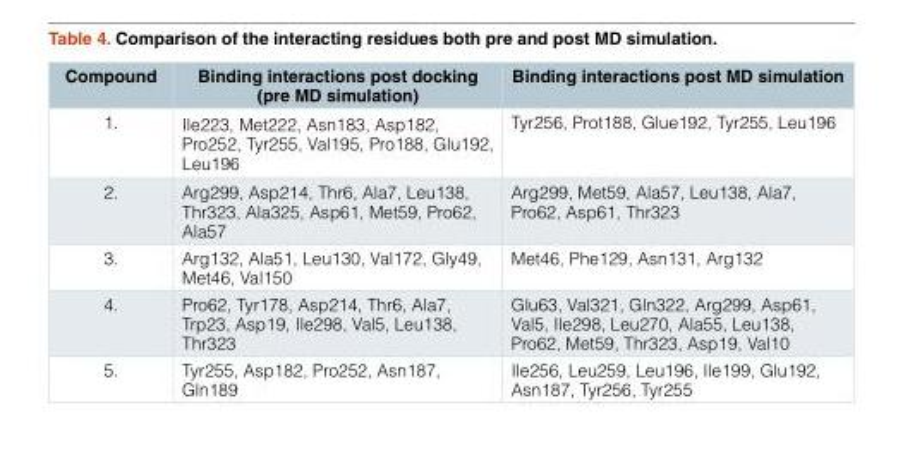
<table><thead><tr><td>Compound</td><td>Binding interactions post docking (pre MD simulation)</td><td>Binding interactions post MD simulation</td></tr></thead><tbody><tr><td>1.</td><td>Ile223, Met222, Asn183, Asp182, Pro252, Tyr255, Val195, Pro188, Glu192, Leu196</td><td>Tyr256, Prot188, Glue192, Tyr255, Leu196</td></tr><tr><td>2.</td><td>Arg299, Asp214, Thr6, Ala7, Leu138, Thr323, Ala325, Asp61, Met59, Pro62, Ala57</td><td>Arg299, Met59, Ala57, Leu138, Ala7, Pro62, Asp61, Thr323</td></tr><tr><td>3.</td><td>Arg132, Ala51, Leu130, Val172, Gly49, Met46, Val150</td><td>Met46, Phe129, Asn131, Arg132</td></tr><tr><td>4.</td><td>Pro62, Tyr178, Asp214, Thr6, Ala7, Trp23, Asp19, Ile298, Val5, Leu138, Thr323</td><td>Glu63, Val321, Gln322, Arg299, Asp61, Val5, Ile298, Leu270, Ala55, Leu138, Pro62, Met59, Thr323, Asp19, Val10</td></tr><tr><td>5.</td><td>Tyr255, Asp182, Pro252, Asn187, Gln189</td><td>Ile256, Leu259, Leu196, Ile199, Glu192, Asn187, Tyr256, Tyr255</td></tr></tbody></table>